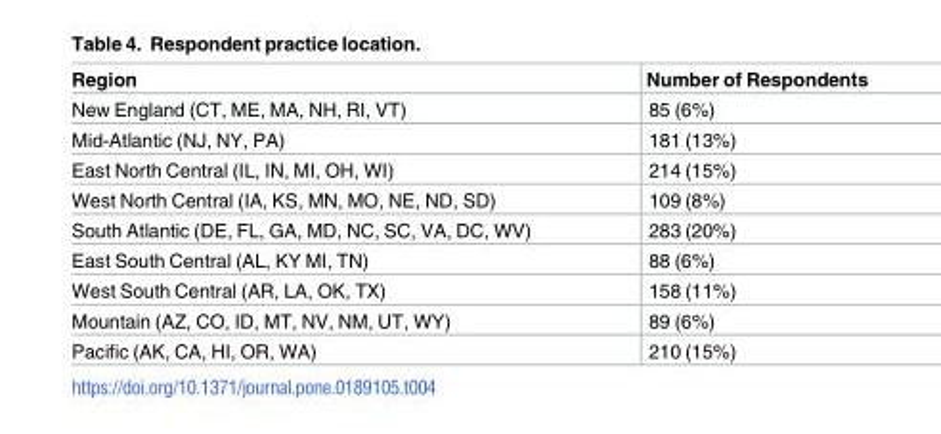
<table><thead><tr><td>Region</td><td>Number of Respondents</td></tr></thead><tbody><tr><td>New England (CT, ME, MA, NH, RI, VT)</td><td>85 (6%)</td></tr><tr><td>Mid-Atlantic (NJ, NY, PA)</td><td>181 (13%)</td></tr><tr><td>East North Central (IL, IN, MI, OH, WI)</td><td>214 (15%)</td></tr><tr><td>West North Central (IA, KS, MN, MO, NE, ND, SD)</td><td>109 (8%)</td></tr><tr><td>South Atlantic (DE, FL, GA, MD, NC, SC, VA, DC, WV)</td><td>283 (20%)</td></tr><tr><td>East South Central (AL, KY MI, TN)</td><td>88 (6%)</td></tr><tr><td>West South Central (AR, LA, OK, TX)</td><td>158 (11%)</td></tr><tr><td>Mountain (AZ, CO, ID, MT, NV, NM, UT, WY)</td><td>89 (6%)</td></tr><tr><td>Pacific (AK, CA, HI, OR, WA)</td><td>210 (15%)</td></tr></tbody></table>